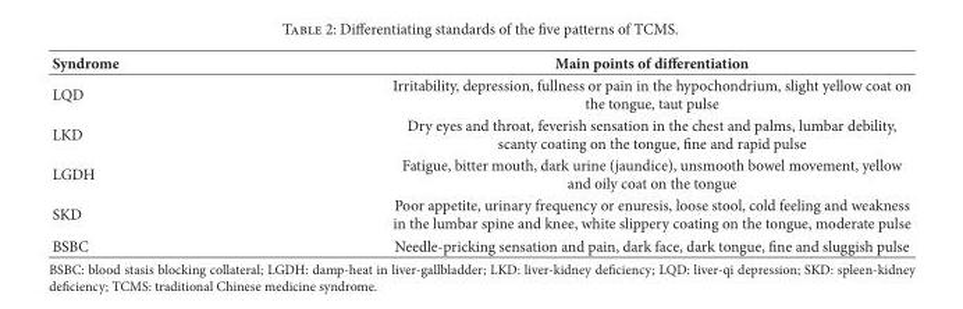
<table><thead><tr><td>Syndrome</td><td>Main points of differentiation</td></tr></thead><tbody><tr><td>LQD</td><td>Irritability, depression, fullness or pain in the hypochondrium, slight yellow coat on the tongue, taut pulse</td></tr><tr><td>LKD</td><td>Dry eyes and throat, feverish sensation in the chest and palms, lumbar debility, scanty coating on the tongue, fine and rapid pulse</td></tr><tr><td>LGDH</td><td>Fatigue, bitter mouth, dark urine (jaundice), unsmooth bowel movement, yellow and oily coat on the tongue</td></tr><tr><td>SKD</td><td>Poor appetite, urinary frequency or enuresis, loose stool, cold feeling and weakness in the lumbar spine and knee, white slippery coating on the tongue, moderate pulse</td></tr><tr><td>BSBC</td><td>Needle-pricking sensation and pain, dark face, dark tongue, fine and sluggish pulse</td></tr></tbody></table>